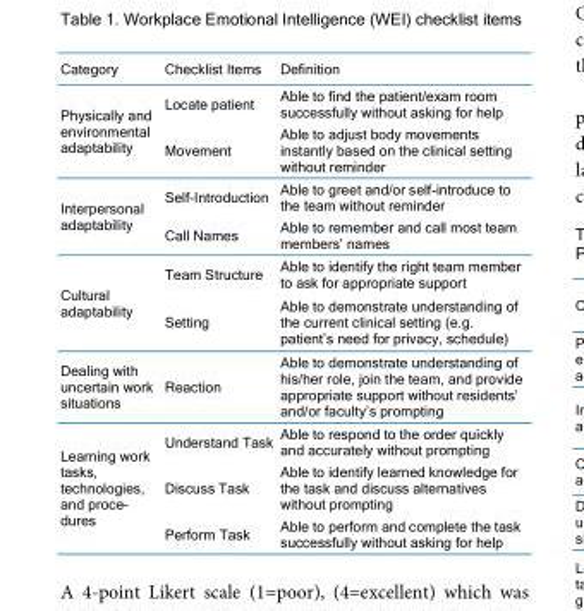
<table><thead><tr><td>Category</td><td>Checklist Items</td><td>Definition</td></tr></thead><tbody><tr><td rowspan="2">Physically and environmental adaptability</td><td>Locate patient</td><td>Able to find the patient/exam room successfully without asking for help</td></tr><tr><td>Movement</td><td>Able to adjust body movements instantly based on the clinical setting without reminder</td></tr><tr><td rowspan="2">Interpersonal adaptability</td><td>Self-Introduction</td><td>Able to greet and/or self-introduce to the team without reminder</td></tr><tr><td>Call Names</td><td>Able to remember and call most team members’ names</td></tr><tr><td rowspan="2">Cultural adaptability</td><td>Team Structure</td><td>Able to identify the right team member to ask for appropriate support</td></tr><tr><td>Setting</td><td>Able to demonstrate understanding of the current clinical setting (e.g. patient’s need for privacy, schedule)</td></tr><tr><td>Dealing with uncertain work situations</td><td>Reaction</td><td>Able to demonstrate understanding of his/her role, join the team, and provide appropriate support without residents’ and/or faculty’s prompting</td></tr><tr><td rowspan="3">Learning work tasks, technologies, and proce- dures</td><td>Understand Task</td><td>Able to respond to the order quickly and accurately without prompting</td></tr><tr><td>Discuss Task</td><td>Able to identify learned knowledge for the task and discuss alternatives without prompting</td></tr><tr><td>Perform Task</td><td>Able to perform and complete the task successfully without asking for help</td></tr></tbody></table>